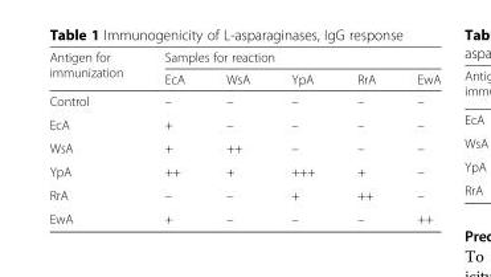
<table><thead><tr><td rowspan="2">Antigen for immunization</td><td colspan="5">Samples for reaction</td></tr><tr><td>EcA</td><td>WsA</td><td>YpA</td><td>RrA</td><td>EwA</td></tr></thead><tbody><tr><td>Control</td><td>–</td><td>–</td><td>–</td><td>–</td><td>–</td></tr><tr><td>EcA</td><td>+</td><td>–</td><td>–</td><td>–</td><td>–</td></tr><tr><td>WsA</td><td>+</td><td>++</td><td>–</td><td>–</td><td>–</td></tr><tr><td>YpA</td><td>++</td><td>+</td><td>+++</td><td>+</td><td>–</td></tr><tr><td>RrA</td><td>–</td><td>–</td><td>+</td><td>++</td><td>–</td></tr><tr><td>EwA</td><td>+</td><td>–</td><td>–</td><td>–</td><td>++</td></tr></tbody></table>